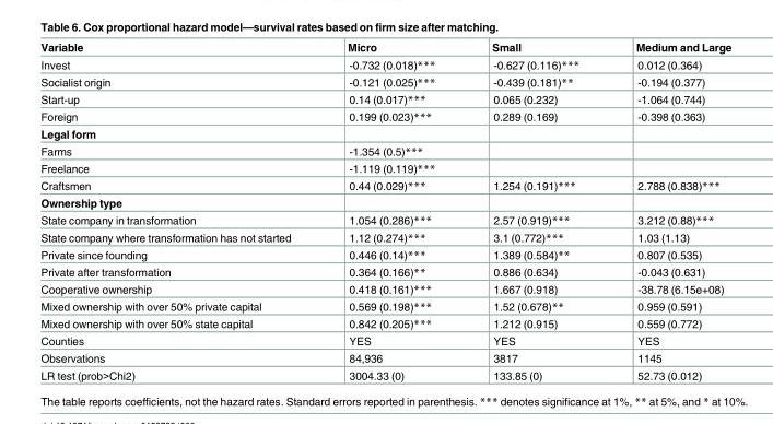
<table><thead><tr><td>Variable</td><td>Micro</td><td>Small</td><td>Medium and Large</td></tr></thead><tbody><tr><td>Invest</td><td>-0.732 (0.018)***</td><td>-0.627 (0.116)***</td><td>0.012 (0.364)</td></tr><tr><td>Socialist origin</td><td>-0.121 (0.025)***</td><td>-0.439 (0.181)**</td><td>-0.194 (0.377)</td></tr><tr><td>Start-up</td><td>0.14 (0.017)***</td><td>0.065 (0.232)</td><td>-1.064 (0.744)</td></tr><tr><td>Foreign</td><td>0.199 (0.023)***</td><td>0.289 (0.169)</td><td>-0.398 (0.363)</td></tr><tr><td colspan="4">Legal form</td></tr><tr><td>Farms</td><td>-1.354 (0.5)***</td><td></td><td></td></tr><tr><td>Freelance</td><td>-1.119 (0.119)***</td><td></td><td></td></tr><tr><td>Craftsmen</td><td>0.44 (0.029)***</td><td>1.254 (0.191)***</td><td>2.788 (0.838)***</td></tr><tr><td colspan="4">Ownership type</td></tr><tr><td>State company in transformation</td><td>1.054 (0.286)***</td><td>2.57 (0.919)***</td><td>3.212 (0.88)***</td></tr><tr><td>State company where transformation has not started</td><td>1.12 (0.274)***</td><td>3.1 (0.772)***</td><td>1.03 (1.13)</td></tr><tr><td>Private since founding</td><td>0.446 (0.14)***</td><td>1.389 (0.584)**</td><td>0.807 (0.535)</td></tr><tr><td>Private after transformation</td><td>0.364 (0.166)**</td><td>0.886 (0.634)</td><td>-0.043 (0.631)</td></tr><tr><td>Cooperative ownership</td><td>0.418 (0.161)***</td><td>1.667 (0.918)</td><td>-38.78 (6.15e+08)</td></tr><tr><td>Mixed ownership with over 50% private capital</td><td>0.569 (0.198)***</td><td>1.52 (0.678)**</td><td>0.959 (0.591)</td></tr><tr><td>Mixed ownership with over 50% state capital</td><td>0.842 (0.205)***</td><td>1.212 (0.915)</td><td>0.559 (0.772)</td></tr><tr><td>Counties</td><td>YES</td><td>YES</td><td>YES</td></tr><tr><td>Observations</td><td>84,936</td><td>3817</td><td>1145</td></tr><tr><td>LR test (prob&gt;Chi2)</td><td>3004.33 (0)</td><td>133.85 (0)</td><td>52.73 (0.012)</td></tr></tbody></table>